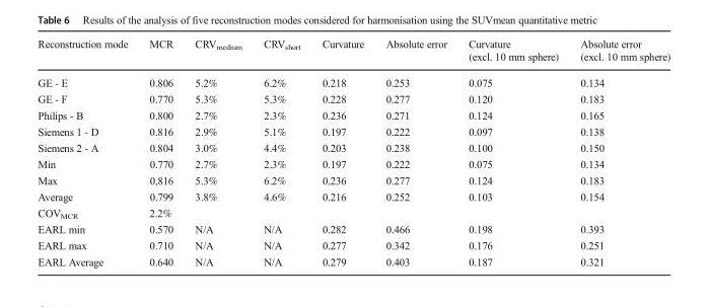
<table><thead><tr><td>Reconstruction mode</td><td>MCR</td><td>CRV<sub>medium</sub></td><td>CRV<sub>short</sub></td><td>Curvature</td><td>Absolute error</td><td>Curvature (excl. 10 mm sphere)</td><td>Absolute error (excl. 10 mm sphere)</td></tr></thead><tbody><tr><td>GE - E</td><td>0.806</td><td>5.2%</td><td>6.2%</td><td>0.218</td><td>0.253</td><td>0.075</td><td>0.134</td></tr><tr><td>GE - F</td><td>0.770</td><td>5.3%</td><td>5.3%</td><td>0.228</td><td>0.277</td><td>0.120</td><td>0.183</td></tr><tr><td>Philips - B</td><td>0.800</td><td>2.7%</td><td>2.3%</td><td>0.236</td><td>0.271</td><td>0.124</td><td>0.165</td></tr><tr><td>Siemens 1 - D</td><td>0.816</td><td>2.9%</td><td>5.1%</td><td>0.197</td><td>0.222</td><td>0.097</td><td>0.138</td></tr><tr><td>Siemens 2 - A</td><td>0.804</td><td>3.0%</td><td>4.4%</td><td>0.203</td><td>0.238</td><td>0.100</td><td>0.150</td></tr><tr><td>Min</td><td>0.770</td><td>2.7%</td><td>2.3%</td><td>0.197</td><td>0.222</td><td>0.075</td><td>0.134</td></tr><tr><td>Max</td><td>0,816</td><td>5.3%</td><td>6.2%</td><td>0.236</td><td>0.277</td><td>0.124</td><td>0.183</td></tr><tr><td>Average</td><td>0.799</td><td>3.8%</td><td>4.6%</td><td>0.216</td><td>0.252</td><td>0.103</td><td>0.154</td></tr><tr><td>COV<sub>MCR</sub></td><td>2.2%</td><td></td><td></td><td></td><td></td><td></td><td></td></tr><tr><td>EARL min</td><td>0.570</td><td>N/A</td><td>N/A</td><td>0.282</td><td>0.466</td><td>0.198</td><td>0.393</td></tr><tr><td>EARL max</td><td>0.710</td><td>N/A</td><td>N/A</td><td>0.277</td><td>0.342</td><td>0.176</td><td>0.251</td></tr><tr><td>EARL Average</td><td>0.640</td><td>N/A</td><td>N/A</td><td>0.279</td><td>0.403</td><td>0.187</td><td>0.321</td></tr></tbody></table>